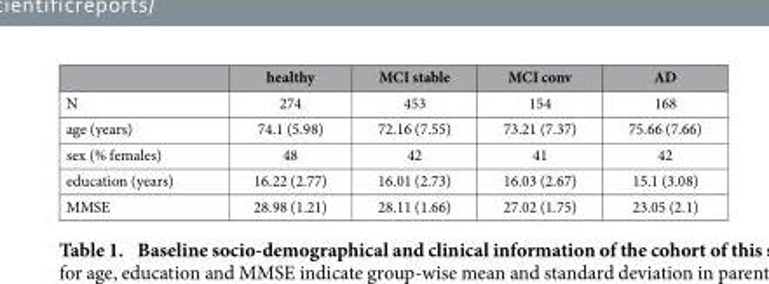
<table><thead><tr><td></td><td>healthy</td><td>MCI stable</td><td>MCI conv</td><td>AD</td></tr></thead><tbody><tr><td>N</td><td>274</td><td>453</td><td>154</td><td>168</td></tr><tr><td>age (years)</td><td>74.1 (5.98)</td><td>72.16 (7.55)</td><td>73.21 (7.37)</td><td>75.66 (7.66)</td></tr><tr><td>sex (% females)</td><td>48</td><td>42</td><td>41</td><td>42</td></tr><tr><td>education (years)</td><td>16.22 (2.77)</td><td>16.01 (2.73)</td><td>16.03 (2.67)</td><td>15.1 (3.08)</td></tr><tr><td>MMSE</td><td>28.98 (1.21)</td><td>28.11 (1.66)</td><td>27.02 (1.75)</td><td>23.05 (2.1)</td></tr></tbody></table>